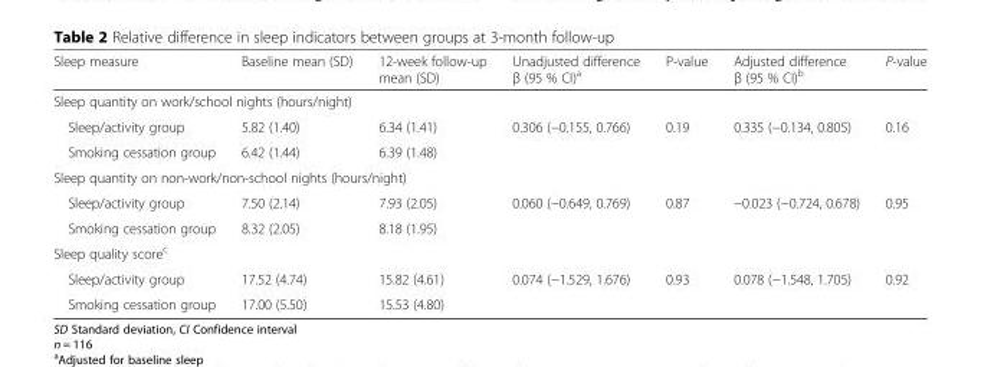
<table><thead><tr><td>Sleep measure</td><td>Baseline mean (SD)</td><td>12-week follow-up mean (SD)</td><td>Unadjusted difference β (95 % CI)<sup>a</sup></td><td>P-value</td><td>Adjusted difference β (95 % CI)<sup>b</sup></td><td>P-value</td></tr></thead><tbody><tr><td colspan="7">Sleep quantity on work/school nights (hours/night)</td></tr><tr><td>Sleep/activity group</td><td>5.82 (1.40)</td><td>6.34 (1.41)</td><td rowspan="2">0.306 (−0.155, 0.766)</td><td rowspan="2">0.19</td><td rowspan="2">0.335 (−0.134, 0.805)</td><td rowspan="2">0.16</td></tr><tr><td>Smoking cessation group</td><td>6.42 (1.44)</td><td>6.39 (1.48)</td></tr><tr><td colspan="7">Sleep quantity on non-work/non-school nights (hours/night)</td></tr><tr><td>Sleep/activity group</td><td>7.50 (2.14)</td><td>7.93 (2.05)</td><td rowspan="2">0.060 (−0.649, 0.769)</td><td rowspan="2">0.87</td><td rowspan="2">−0.023 (−0.724, 0.678)</td><td rowspan="2">0.95</td></tr><tr><td>Smoking cessation group</td><td>8.32 (2.05)</td><td>8.18 (1.95)</td></tr><tr><td colspan="7">Sleep quality score<sup>c</sup></td></tr><tr><td>Sleep/activity group</td><td>17.52 (4.74)</td><td>15.82 (4.61)</td><td rowspan="2">0.074 (−1.529, 1.676)</td><td rowspan="2">0.93</td><td rowspan="2">0.078 (−1.548, 1.705)</td><td rowspan="2">0.92</td></tr><tr><td>Smoking cessation group</td><td>17.00 (5.50)</td><td>15.53 (4.80)</td></tr></tbody></table>